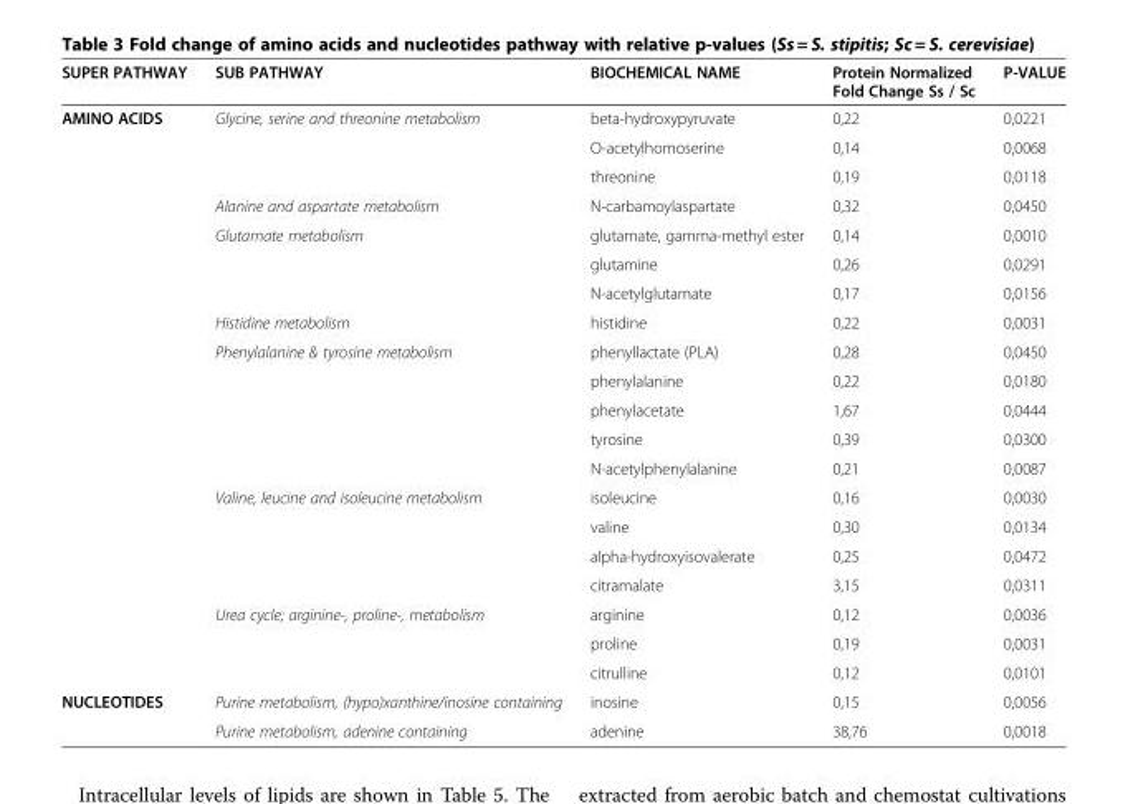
<table><thead><tr><td>SUPER PATHWAY</td><td>SUB PATHWAY</td><td>BIOCHEMICAL NAME</td><td>Protein Normalized Fold Change Ss / Sc</td><td>P-VALUE</td></tr></thead><tbody><tr><td rowspan="20">AMINO ACIDS</td><td>Glycine, serine and threonine metabolism</td><td>beta-hydroxypyruvate</td><td>0,22</td><td>0,0221</td></tr><tr><td></td><td>O-acetylhomoserine</td><td>0,14</td><td>0,0068</td></tr><tr><td></td><td>threonine</td><td>0,19</td><td>0,0118</td></tr><tr><td>Alanine and aspartate metabolism</td><td>N-carbamoylaspartate</td><td>0,32</td><td>0,0450</td></tr><tr><td>Glutamate metabolism</td><td>glutamate, gamma-methyl ester</td><td>0,14</td><td>0,0010</td></tr><tr><td></td><td>glutamine</td><td>0,26</td><td>0,0291</td></tr><tr><td></td><td>N-acetylglutamate</td><td>0,17</td><td>0,0156</td></tr><tr><td>Histidine metabolism</td><td>histidine</td><td>0,22</td><td>0,0031</td></tr><tr><td>Phenylalanine &amp; tyrosine metabolism</td><td>phenyllactate (PLA)</td><td>0,28</td><td>0,0450</td></tr><tr><td></td><td>phenylalanine</td><td>0,22</td><td>0,0180</td></tr><tr><td></td><td>phenylacetate</td><td>1,67</td><td>0,0444</td></tr><tr><td></td><td>tyrosine</td><td>0,39</td><td>0,0300</td></tr><tr><td></td><td>N-acetylphenylalanine</td><td>0,21</td><td>0,0087</td></tr><tr><td>Valine, leucine and isoleucine metabolism</td><td>isoleucine</td><td>0,16</td><td>0,0030</td></tr><tr><td></td><td>valine</td><td>0,30</td><td>0,0134</td></tr><tr><td></td><td>alpha-hydroxyisovalerate</td><td>0,25</td><td>0,0472</td></tr><tr><td></td><td>citramalate</td><td>3,15</td><td>0,0311</td></tr><tr><td>Urea cycle; arginine-, proline-, metabolism</td><td>arginine</td><td>0,12</td><td>0,0036</td></tr><tr><td></td><td>proline</td><td>0,19</td><td>0,0031</td></tr><tr><td></td><td>citrulline</td><td>0,12</td><td>0,0101</td></tr><tr><td rowspan="2">NUCLEOTIDES</td><td>Purine metabolism, (hypo)xanthine/inosine containing</td><td>inosine</td><td>0,15</td><td>0,0056</td></tr><tr><td>Purine metabolism, adenine containing</td><td>adenine</td><td>38,76</td><td>0,0018</td></tr></tbody></table>